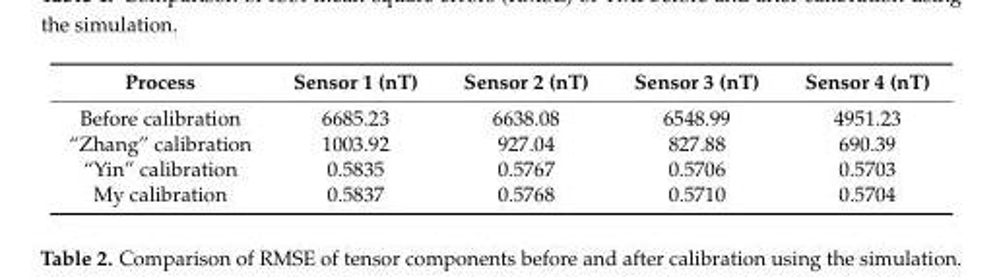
<table><thead><tr><td>Process</td><td>Sensor 1 (nT)</td><td>Sensor 2 (nT)</td><td>Sensor 3 (nT)</td><td>Sensor 4 (nT)</td></tr></thead><tbody><tr><td>Before calibration</td><td>6685.23</td><td>6638.08</td><td>6548.99</td><td>4951.23</td></tr><tr><td>“Zhang” calibration</td><td>1003.92</td><td>927.04</td><td>827.88</td><td>690.39</td></tr><tr><td>“Yin” calibration</td><td>0.5835</td><td>0.5767</td><td>0.5706</td><td>0.5703</td></tr><tr><td>My calibration</td><td>0.5837</td><td>0.5768</td><td>0.5710</td><td>0.5704</td></tr></tbody></table>